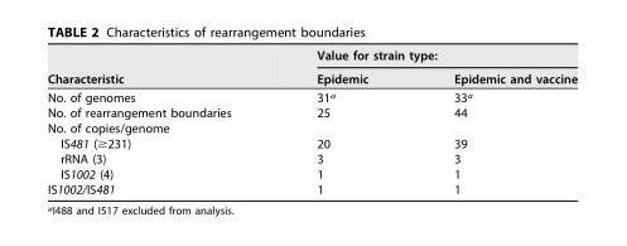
<table><thead><tr><td rowspan="2">Characteristic</td><td colspan="2">Value for strain type:</td></tr><tr><td>Epidemic</td><td>Epidemic and vaccine</td></tr></thead><tbody><tr><td>No. of genomes</td><td>31<sup>a</sup></td><td>33<sup>a</sup></td></tr><tr><td>No. of rearrangement boundaries</td><td>25</td><td>44</td></tr><tr><td colspan="3">No. of copies/genome</td></tr><tr><td>IS481 (≥231)</td><td>20</td><td>39</td></tr><tr><td>rRNA (3)</td><td>3</td><td>3</td></tr><tr><td>IS1002 (4)</td><td>1</td><td>1</td></tr><tr><td>IS1002/IS481</td><td>1</td><td>1</td></tr></tbody></table>